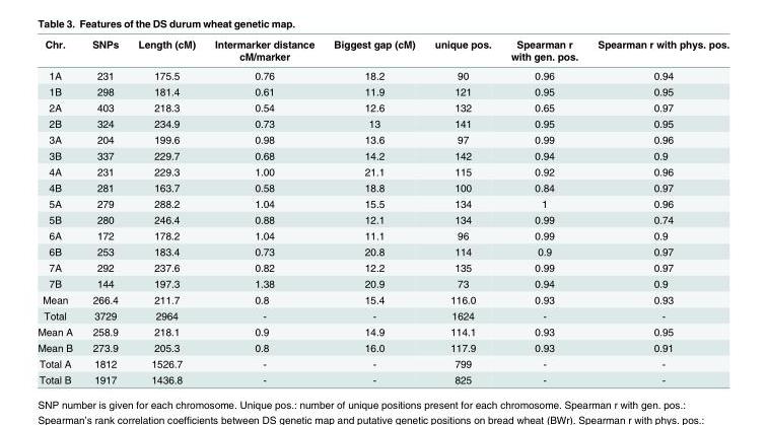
<table><thead><tr><td>Chr.</td><td>SNPs</td><td>Length (cM)</td><td>Intermarker distance cM/marker</td><td>Biggest gap (cM)</td><td>unique pos.</td><td>Spearman r with gen. pos.</td><td>Spearman r with phys. pos.</td></tr></thead><tbody><tr><td>1A</td><td>231</td><td>175.5</td><td>0.76</td><td>18.2</td><td>90</td><td>0.96</td><td>0.94</td></tr><tr><td>1B</td><td>298</td><td>181.4</td><td>0.61</td><td>11.9</td><td>121</td><td>0.95</td><td>0.95</td></tr><tr><td>2A</td><td>403</td><td>218.3</td><td>0.54</td><td>12.6</td><td>132</td><td>0.65</td><td>0.97</td></tr><tr><td>2B</td><td>324</td><td>234.9</td><td>0.73</td><td>13</td><td>141</td><td>0.95</td><td>0.95</td></tr><tr><td>3A</td><td>204</td><td>199.6</td><td>0.98</td><td>13.6</td><td>97</td><td>0.99</td><td>0.96</td></tr><tr><td>3B</td><td>337</td><td>229.7</td><td>0.68</td><td>14.2</td><td>142</td><td>0.94</td><td>0.9</td></tr><tr><td>4A</td><td>231</td><td>229.3</td><td>1.00</td><td>21.1</td><td>115</td><td>0.92</td><td>0.96</td></tr><tr><td>4B</td><td>281</td><td>163.7</td><td>0.58</td><td>18.8</td><td>100</td><td>0.84</td><td>0.97</td></tr><tr><td>5A</td><td>279</td><td>288.2</td><td>1.04</td><td>15.5</td><td>134</td><td>1</td><td>0.96</td></tr><tr><td>5B</td><td>280</td><td>246.4</td><td>0.88</td><td>12.1</td><td>134</td><td>0.99</td><td>0.74</td></tr><tr><td>6A</td><td>172</td><td>178.2</td><td>1.04</td><td>11.1</td><td>96</td><td>0.99</td><td>0.9</td></tr><tr><td>6B</td><td>253</td><td>183.4</td><td>0.73</td><td>20.8</td><td>114</td><td>0.9</td><td>0.97</td></tr><tr><td>7A</td><td>292</td><td>237.6</td><td>0.82</td><td>12.2</td><td>135</td><td>0.99</td><td>0.97</td></tr><tr><td>7B</td><td>144</td><td>197.3</td><td>1.38</td><td>20.9</td><td>73</td><td>0.94</td><td>0.9</td></tr><tr><td>Mean</td><td>266.4</td><td>211.7</td><td>0.8</td><td>15.4</td><td>116.0</td><td>0.93</td><td>0.93</td></tr><tr><td>Total</td><td>3729</td><td>2964</td><td>-</td><td>-</td><td>1624</td><td>-</td><td>-</td></tr><tr><td>Mean A</td><td>258.9</td><td>218.1</td><td>0.9</td><td>14.9</td><td>114.1</td><td>0.93</td><td>0.95</td></tr><tr><td>Mean B</td><td>273.9</td><td>205.3</td><td>0.8</td><td>16.0</td><td>117.9</td><td>0.93</td><td>0.91</td></tr><tr><td>Total A</td><td>1812</td><td>1526.7</td><td>-</td><td>-</td><td>799</td><td>-</td><td>-</td></tr><tr><td>Total B</td><td>1917</td><td>1436.8</td><td>-</td><td>-</td><td>825</td><td>-</td><td>-</td></tr></tbody></table>